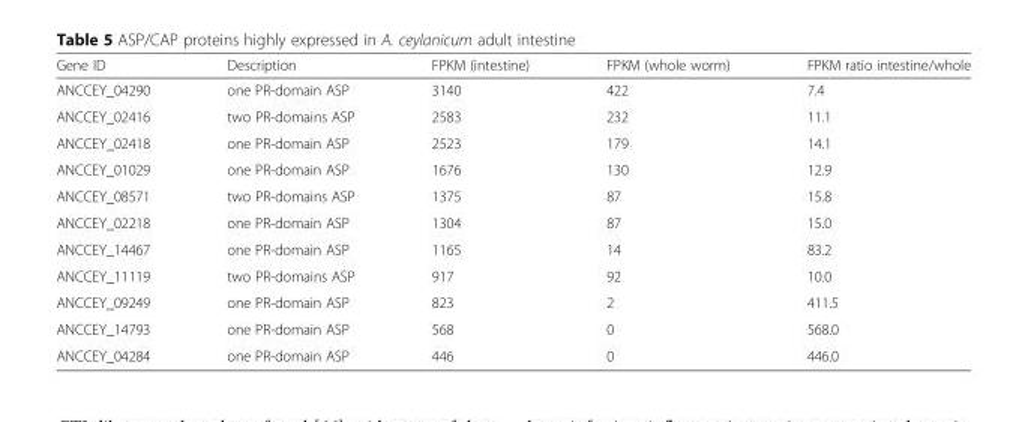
<table><thead><tr><td>Gene ID</td><td>Description</td><td>FPKM (intestine)</td><td>FPKM (whole worm)</td><td>FPKM ratio intestine/whole</td></tr></thead><tbody><tr><td>ANCCEY_04290</td><td>one PR-domain ASP</td><td>3140</td><td>422</td><td>7.4</td></tr><tr><td>ANCCEY_02416</td><td>two PR-domains ASP</td><td>2583</td><td>232</td><td>11.1</td></tr><tr><td>ANCCEY_02418</td><td>one PR-domain ASP</td><td>2523</td><td>179</td><td>14.1</td></tr><tr><td>ANCCEY_01029</td><td>one PR-domain ASP</td><td>1676</td><td>130</td><td>12.9</td></tr><tr><td>ANCCEY_08571</td><td>two PR-domains ASP</td><td>1375</td><td>87</td><td>15.8</td></tr><tr><td>ANCCEY_02218</td><td>one PR-domain ASP</td><td>1304</td><td>87</td><td>15.0</td></tr><tr><td>ANCCEY_14467</td><td>one PR-domain ASP</td><td>1165</td><td>14</td><td>83.2</td></tr><tr><td>ANCCEY_11119</td><td>two PR-domains ASP</td><td>917</td><td>92</td><td>10.0</td></tr><tr><td>ANCCEY_09249</td><td>one PR-domain ASP</td><td>823</td><td>2</td><td>411.5</td></tr><tr><td>ANCCEY_14793</td><td>one PR-domain ASP</td><td>568</td><td>0</td><td>568.0</td></tr><tr><td>ANCCEY_04284</td><td>one PR-domain ASP</td><td>446</td><td>0</td><td>446.0</td></tr></tbody></table>